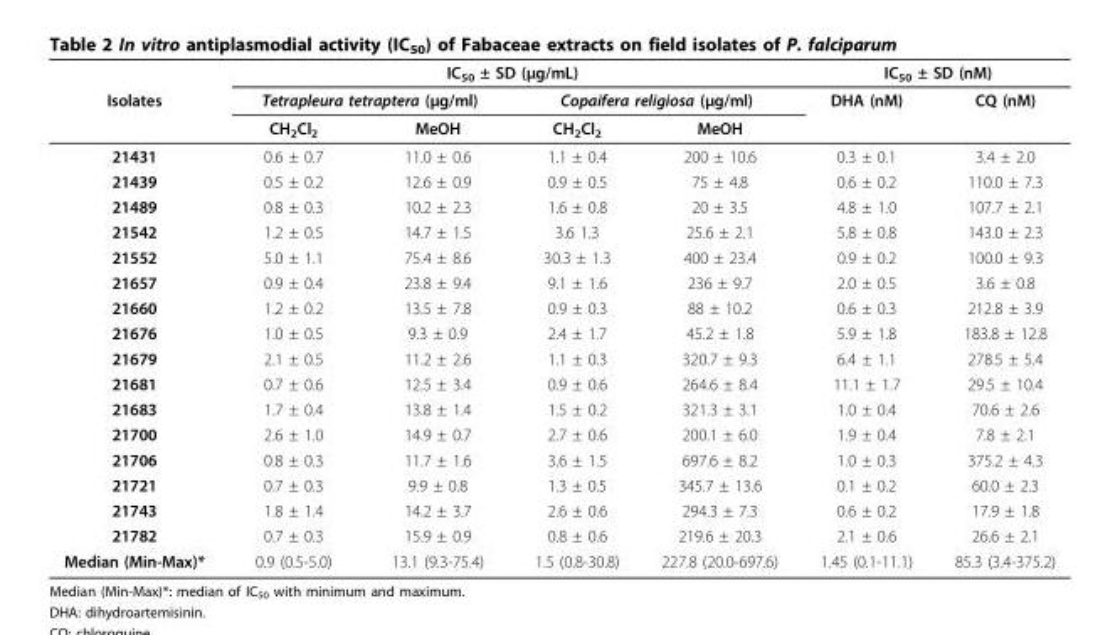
<table><thead><tr><td rowspan="3">Isolates</td><td colspan="4">IC<sub>50</sub> ± SD (μg/mL)</td><td colspan="2">IC<sub>50</sub> ± SD (nM)</td></tr><tr><td colspan="2">Tetrapleura tetraptera (μg/ml)</td><td colspan="2">Copaifera religiosa (μg/ml)</td><td rowspan="2">DHA (nM)</td><td rowspan="2">CQ (nM)</td></tr><tr><td>CH<sub>2</sub>Cl<sub>2</sub></td><td>MeOH</td><td>CH<sub>2</sub>Cl<sub>2</sub></td><td>MeOH</td></tr></thead><tbody><tr><td>21431</td><td>0.6 ± 0.7</td><td>11.0 ± 0.6</td><td>1.1 ± 0.4</td><td>200 ± 10.6</td><td>0.3 ± 0.1</td><td>3.4 ± 2.0</td></tr><tr><td>21439</td><td>0.5 ± 0.2</td><td>12.6 ± 0.9</td><td>0.9 ± 0.5</td><td>75 ± 4.8</td><td>0.6 ± 0.2</td><td>110.0 ± 7.3</td></tr><tr><td>21489</td><td>0.8 ± 0.3</td><td>10.2 ± 2.3</td><td>1.6 ± 0.8</td><td>20 ± 3.5</td><td>4.8 ± 1.0</td><td>107.7 ± 2.1</td></tr><tr><td>21542</td><td>1.2 ± 0.5</td><td>14.7 ± 1.5</td><td>3.6 1.3</td><td>25.6 ± 2.1</td><td>5.8 ± 0.8</td><td>143.0 ± 2.3</td></tr><tr><td>21552</td><td>5.0 ± 1.1</td><td>75.4 ± 8.6</td><td>30.3 ± 1.3</td><td>400 ± 23.4</td><td>0.9 ± 0.2</td><td>100.0 ± 9.3</td></tr><tr><td>21657</td><td>0.9 ± 0.4</td><td>23.8 ± 9.4</td><td>9.1 ± 1.6</td><td>236 ± 9.7</td><td>2.0 ± 0.5</td><td>3.6 ± 0.8</td></tr><tr><td>21660</td><td>1.2 ± 0.2</td><td>13.5 ± 7.8</td><td>0.9 ± 0.3</td><td>88 ± 10.2</td><td>0.6 ± 0.3</td><td>212.8 ± 3.9</td></tr><tr><td>21676</td><td>1.0 ± 0.5</td><td>9.3 ± 0.9</td><td>2.4 ± 1.7</td><td>45.2 ± 1.8</td><td>5.9 ± 1.8</td><td>183.8 ± 12.8</td></tr><tr><td>21679</td><td>2.1 ± 0.5</td><td>11.2 ± 2.6</td><td>1.1 ± 0.3</td><td>320.7 ± 9.3</td><td>6.4 ± 1.1</td><td>278.5 ± 5.4</td></tr><tr><td>21681</td><td>0.7 ± 0.6</td><td>12.5 ± 3.4</td><td>0.9 ± 0.6</td><td>264.6 ± 8.4</td><td>11.1 ± 1.7</td><td>29.5 ± 10.4</td></tr><tr><td>21683</td><td>1.7 ± 0.4</td><td>13.8 ± 1.4</td><td>1.5 ± 0.2</td><td>321.3 ± 3.1</td><td>1.0 ± 0.4</td><td>70.6 ± 2.6</td></tr><tr><td>21700</td><td>2.6 ± 1.0</td><td>14.9 ± 0.7</td><td>2.7 ± 0.6</td><td>200.1 ± 6.0</td><td>1.9 ± 0.4</td><td>7.8 ± 2.1</td></tr><tr><td>21706</td><td>0.8 ± 0.3</td><td>11.7 ± 1.6</td><td>3.6 ± 1.5</td><td>697.6 ± 8.2</td><td>1.0 ± 0.3</td><td>375.2 ± 4.3</td></tr><tr><td>21721</td><td>0.7 ± 0.3</td><td>9.9 ± 0.8</td><td>1.3 ± 0.5</td><td>345.7 ± 13.6</td><td>0.1 ± 0.2</td><td>60.0 ± 2.3</td></tr><tr><td>21743</td><td>1.8 ± 1.4</td><td>14.2 ± 3.7</td><td>2.6 ± 0.6</td><td>294.3 ± 7.3</td><td>0.6 ± 0.2</td><td>17.9 ± 1.8</td></tr><tr><td>21782</td><td>0.7 ± 0.3</td><td>15.9 ± 0.9</td><td>0.8 ± 0.6</td><td>219.6 ± 20.3</td><td>2.1 ± 0.6</td><td>26.6 ± 2.1</td></tr><tr><td>Median (Min-Max)*</td><td>0.9 (0.5-5.0)</td><td>13.1 (9.3-75.4)</td><td>1.5 (0.8-30.8)</td><td>227.8 (20.0-697.6)</td><td>1.45 (0.1-11.1)</td><td>85.3 (3.4-375.2)</td></tr></tbody></table>